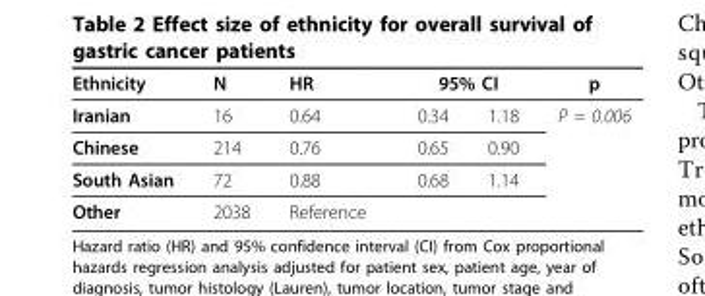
<table><thead><tr><td rowspan="2">Ethnicity Iranian</td><td rowspan="2">N 16</td><td rowspan="2">HR 0.64</td><td colspan="2">95% CI</td><td rowspan="2">p P = 0.006</td></tr><tr><td>0.34</td><td>1.18</td></tr></thead><tbody><tr><td>Chinese</td><td>214</td><td>0.76</td><td>0.65</td><td>0.90</td><td></td></tr><tr><td>South Asian</td><td>72</td><td>0.88</td><td>0.68</td><td>1.14</td><td></td></tr><tr><td>Other</td><td>2038</td><td>Reference</td><td></td><td></td><td></td></tr></tbody></table>